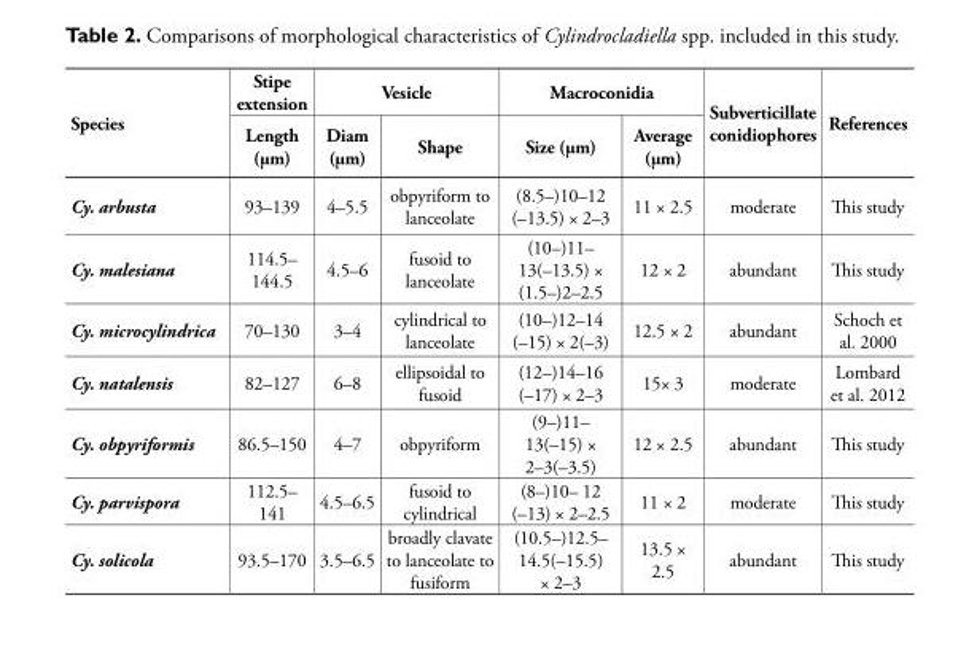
<table><thead><tr><td rowspan="2">Species</td><td rowspan="2">Stipe extension Length (µm)</td><td colspan="2">Vesicle</td><td colspan="2">Macroconidia</td><td rowspan="2">Subverticillate conidiophores</td><td rowspan="2">References</td></tr><tr><td>Diam (µm)</td><td>Shape</td><td>Size (µm)</td><td>Average (µm)</td></tr></thead><tbody><tr><td>Cy. arbusta</td><td>93–139</td><td>4–5.5</td><td>obpyriform to lanceolate</td><td>(8.5–)10–12 (–13.5) × 2–3</td><td>11 × 2.5</td><td>moderate</td><td>This study</td></tr><tr><td>Cy. malesiana</td><td>114.5– 144.5</td><td>4.5–6</td><td>fusoid to lanceolate</td><td>(10–)11– 13(–13.5) × (1.5–)2–2.5</td><td>12 × 2</td><td>abundant</td><td>This study</td></tr><tr><td>Cy. microcylindrica</td><td>70–130</td><td>3–4</td><td>cylindrical to lanceolate</td><td>(10–)12–14 (–15) × 2(–3)</td><td>12.5 × 2</td><td>abundant</td><td>Schoch et al. 2000</td></tr><tr><td>Cy. natalensis</td><td>82–127</td><td>6–8</td><td>ellipsoidal to fusoid</td><td>(12–)14–16 (–17) × 2–3</td><td>15× 3</td><td>moderate</td><td>Lombard et al. 2012</td></tr><tr><td>Cy. obpyriformis</td><td>86.5–150</td><td>4–7</td><td>obpyriform</td><td>(9–)11– 13(–15) × 2–3(–3.5)</td><td>12 × 2.5</td><td>abundant</td><td>This study</td></tr><tr><td>Cy. parvispora</td><td>112.5– 141</td><td>4.5–6.5</td><td>fusoid to cylindrical</td><td>(8–)10– 12 (–13) × 2–2.5</td><td>11 × 2</td><td>moderate</td><td>This study</td></tr><tr><td>Cy. solicola</td><td>93.5–170</td><td>3.5–6.5</td><td>broadly clavate to lanceolate to fusiform</td><td>(10.5–)12.5– 14.5(–15.5) × 2–3</td><td>13.5 × 2.5</td><td>abundant</td><td>This study</td></tr></tbody></table>